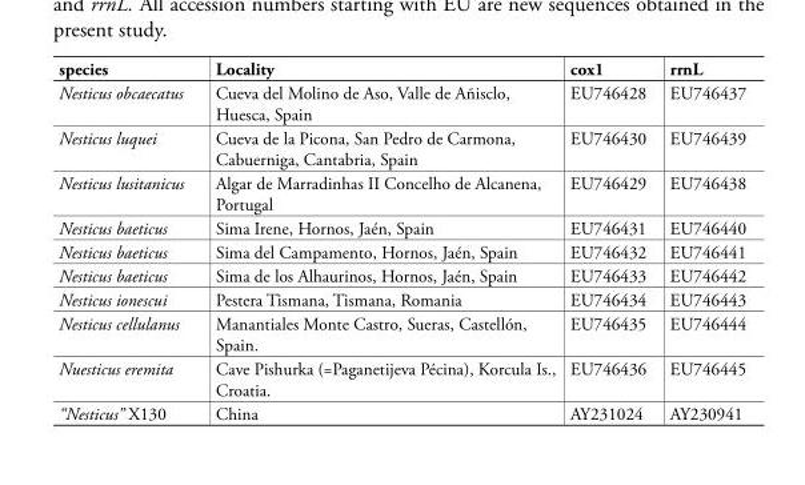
<table><thead><tr><td>species</td><td>Locality</td><td>cox1</td><td>rrnL</td></tr></thead><tbody><tr><td>Nesticus obcaecatus</td><td>Cueva del Molino de Aso, Valle de Añisclo, Huesca, Spain</td><td>EU746428</td><td>EU746437</td></tr><tr><td>Nesticus luquei</td><td>Cueva de la Picona, San Pedro de Carmona, Cabuerniga, Cantabria, Spain</td><td>EU746430</td><td>EU746439</td></tr><tr><td>Nesticus lusitanicus</td><td>Algar de Marradinhas II Concelho de Alcanena, Portugal</td><td>EU746429</td><td>EU746438</td></tr><tr><td>Nesticus baeticus</td><td>Sima Irene, Hornos, Jaén, Spain</td><td>EU746431</td><td>EU746440</td></tr><tr><td>Nesticus baeticus</td><td>Sima del Campamento, Hornos, Jaén, Spain</td><td>EU746432</td><td>EU746441</td></tr><tr><td>Nesticus baeticus</td><td>Sima de los Alhaurinos, Hornos, Jaén, Spain</td><td>EU746433</td><td>EU746442</td></tr><tr><td>Nesticus ionescui</td><td>Pestera Tismana, Tismana, Romania</td><td>EU746434</td><td>EU746443</td></tr><tr><td>Nesticus cellulanus</td><td>Manantiales Monte Castro, Sueras, Castellón, Spain.</td><td>EU746435</td><td>EU746444</td></tr><tr><td>Nuesticus eremita</td><td>Cave Pishurka (=Paganetijeva Pécina), Korcula Is., Croatia.</td><td>EU746436</td><td>EU746445</td></tr><tr><td>“Nesticus” X130</td><td>China</td><td>AY231024</td><td>AY230941</td></tr></tbody></table>